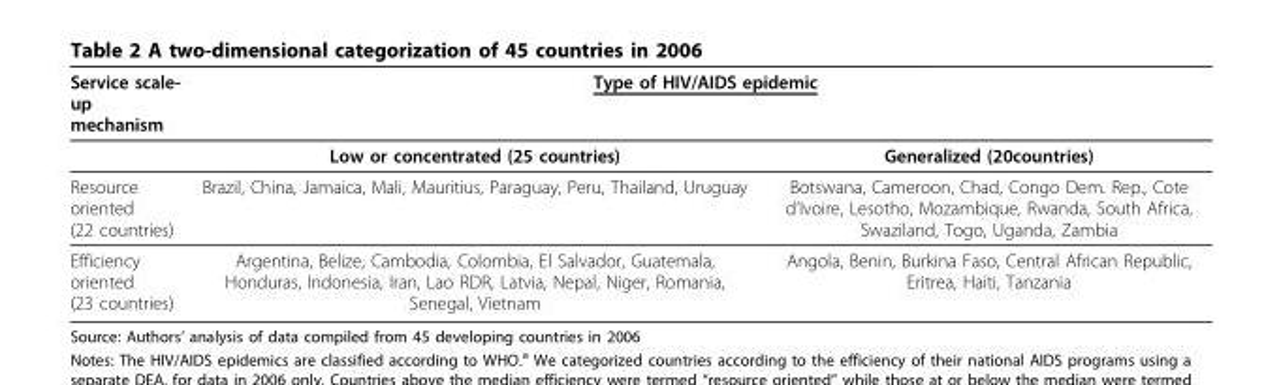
<table><thead><tr><td rowspan="2">Service scale- up mechanism</td><td colspan="2">Type of HIV/AIDS epidemic</td></tr><tr><td>Low or concentrated (25 countries)</td><td>Generalized (20countries)</td></tr></thead><tbody><tr><td>Resource oriented (22 countries)</td><td>Brazil, China, Jamaica, Mali, Mauritius, Paraguay, Peru, Thailand, Uruguay</td><td>Botswana, Cameroon, Chad, Congo Dem. Rep., Cote d’Ivoire, Lesotho, Mozambique, Rwanda, South Africa, Swaziland, Togo, Uganda, Zambia</td></tr><tr><td>Efficiency oriented (23 countries)</td><td>Argentina, Belize, Cambodia, Colombia, El Salvador, Guatemala, Honduras, Indonesia, Iran, Lao RDR, Latvia, Nepal, Niger, Romania, Senegal, Vietnam</td><td>Angola, Benin, Burkina Faso, Central African Republic, Eritrea, Haiti, Tanzania</td></tr></tbody></table>